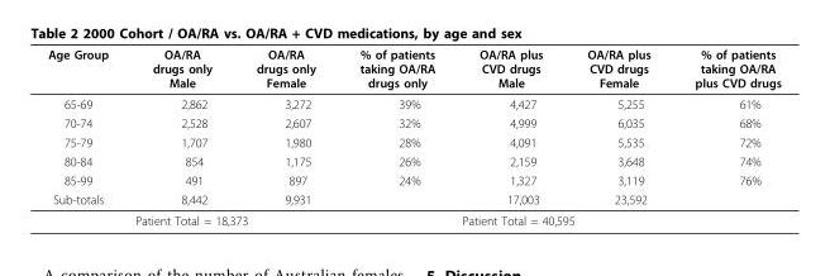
<table><thead><tr><td>Age Group</td><td>OA/RA drugs only Male</td><td>OA/RA drugs only Female</td><td>% of patients taking OA/RA drugs only</td><td>OA/RA plus CVD drugs Male</td><td>OA/RA plus CVD drugs Female</td><td>% of patients taking OA/RA plus CVD drugs</td></tr></thead><tbody><tr><td>65-69</td><td>2,862</td><td>3,272</td><td>39%</td><td>4,427</td><td>5,255</td><td>61%</td></tr><tr><td>70-74</td><td>2,528</td><td>2,607</td><td>32%</td><td>4,999</td><td>6,035</td><td>68%</td></tr><tr><td>75-79</td><td>1,707</td><td>1,980</td><td>28%</td><td>4,091</td><td>5,535</td><td>72%</td></tr><tr><td>80-84</td><td>854</td><td>1,175</td><td>26%</td><td>2,159</td><td>3,648</td><td>74%</td></tr><tr><td>85-99</td><td>491</td><td>897</td><td>24%</td><td>1,327</td><td>3,119</td><td>76%</td></tr><tr><td rowspan="2">Sub-totals</td><td>8,442</td><td>9,931</td><td></td><td>17,003</td><td>23,592</td><td></td></tr><tr><td colspan="3">Patient Total = 18,373</td><td colspan="3">Patient Total = 40,595</td></tr></tbody></table>